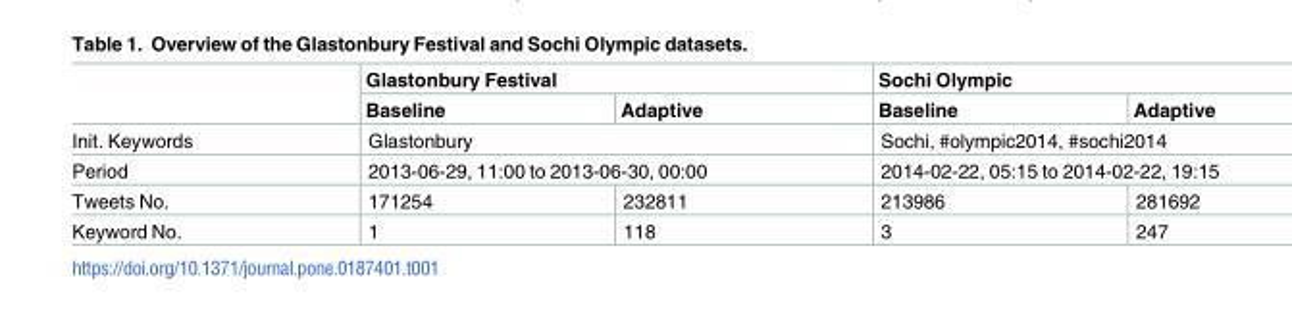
<table><thead><tr><td rowspan="2"></td><td colspan="2">Glastonbury Festival</td><td colspan="2">Sochi Olympic</td></tr><tr><td>Baseline</td><td>Adaptive</td><td>Baseline</td><td>Adaptive</td></tr></thead><tbody><tr><td>Init. Keywords</td><td colspan="2">Glastonbury</td><td colspan="2">Sochi, #olympic2014, #sochi2014</td></tr><tr><td>Period</td><td colspan="2">2013-06-29, 11:00 to 2013-06-30, 00:00</td><td colspan="2">2014-02-22, 05:15 to 2014-02-22, 19:15</td></tr><tr><td>Tweets No.</td><td>171254</td><td>232811</td><td>213986</td><td>281692</td></tr><tr><td>Keyword No.</td><td>1</td><td>118</td><td>3</td><td>247</td></tr></tbody></table>